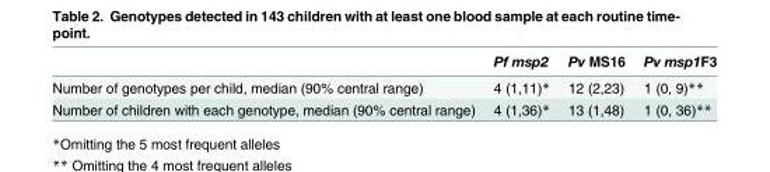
<table><thead><tr><td></td><td>Pf msp2</td><td>Pv MS16</td><td>Pv msp1F3</td></tr></thead><tbody><tr><td>Number of genotypes per child, median (90% central range)</td><td>4 (1,11)*</td><td>12 (2,23)</td><td>1 (0, 9)**</td></tr><tr><td>Number of children with each genotype, median (90% central range)</td><td>4 (1,36)*</td><td>13 (1,48)</td><td>1 (0, 36)**</td></tr></tbody></table>